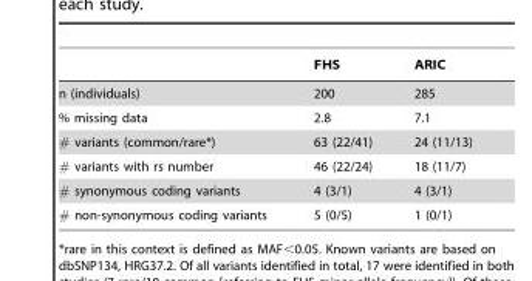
<table><thead><tr><td></td><td>FHS</td><td>ARIC</td></tr></thead><tbody><tr><td>n (individuals)</td><td>200</td><td>285</td></tr><tr><td>% missing data</td><td>2.8</td><td>7.1</td></tr><tr><td># variants (common/rare*)</td><td>63 (22/41)</td><td>24 (11/13)</td></tr><tr><td># variants with rs number</td><td>46 (22/24)</td><td>18 (11/7)</td></tr><tr><td># synonymous coding variants</td><td>4 (3/1)</td><td>4 (3/1)</td></tr><tr><td># non-synonymous coding variants</td><td>5 (0/5)</td><td>1 (0/1)</td></tr></tbody></table>